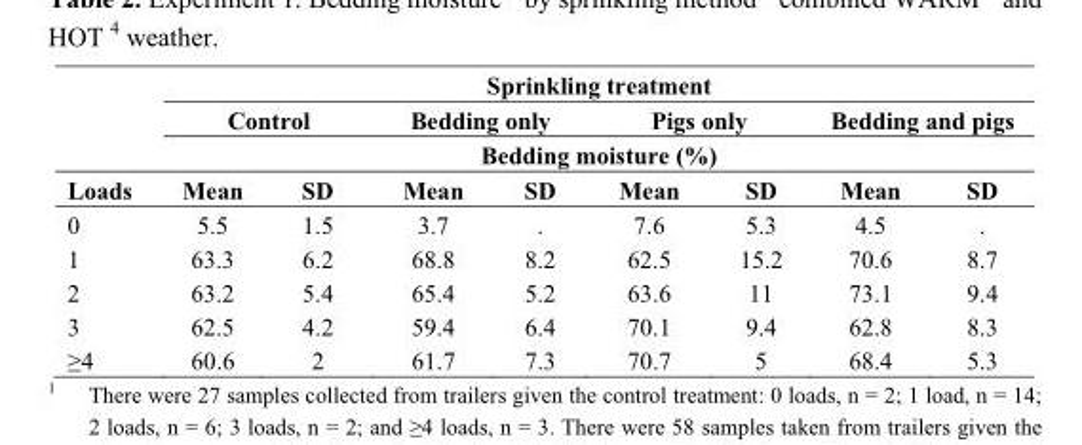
<table><thead><tr><td rowspan="4">Loads</td><td colspan="8">Sprinkling treatment</td></tr><tr><td colspan="2">Control</td><td colspan="2">Bedding only</td><td colspan="2">Pigs only</td><td colspan="2">Bedding and pigs</td></tr><tr><td colspan="8">Bedding moisture (%)</td></tr><tr><td>Mean</td><td>SD</td><td>Mean</td><td>SD</td><td>Mean</td><td>SD</td><td>Mean</td><td>SD</td></tr></thead><tbody><tr><td>0</td><td>5.5</td><td>1.5</td><td>3.7</td><td>.</td><td>7.6</td><td>5.3</td><td>4.5</td><td>.</td></tr><tr><td>1</td><td>63.3</td><td>6.2</td><td>68.8</td><td>8.2</td><td>62.5</td><td>15.2</td><td>70.6</td><td>8.7</td></tr><tr><td>2</td><td>63.2</td><td>5.4</td><td>65.4</td><td>5.2</td><td>63.6</td><td>11</td><td>73.1</td><td>9.4</td></tr><tr><td>3</td><td>62.5</td><td>4.2</td><td>59.4</td><td>6.4</td><td>70.1</td><td>9.4</td><td>62.8</td><td>8.3</td></tr><tr><td>≥4</td><td>60.6</td><td>2</td><td>61.7</td><td>7.3</td><td>70.7</td><td>5</td><td>68.4</td><td>5.3</td></tr></tbody></table>